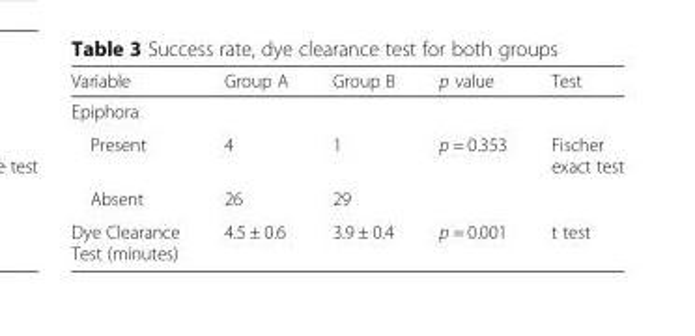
<table><thead><tr><td>Variable</td><td>Group A</td><td>Group B</td><td>p value</td><td>Test</td></tr></thead><tbody><tr><td colspan="5">Epiphora</td></tr><tr><td>Present</td><td>4</td><td>1</td><td>p = 0.353</td><td>Fischer exact test</td></tr><tr><td>Absent</td><td>26</td><td>29</td><td></td><td></td></tr><tr><td>Dye Clearance Test (minutes)</td><td>4.5 ± 0.6</td><td>3.9 ± 0.4</td><td>p = 0.001</td><td>t test</td></tr></tbody></table>